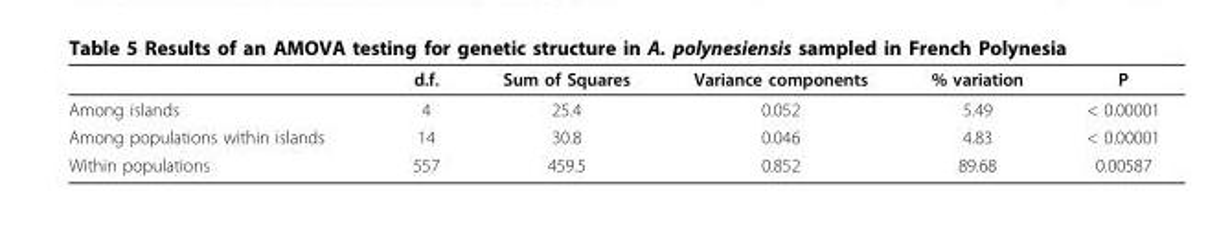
<table><thead><tr><td></td><td>d.f.</td><td>Sum of Squares</td><td>Variance components</td><td>% variation</td><td>P</td></tr></thead><tbody><tr><td>Among islands</td><td>4</td><td>25.4</td><td>0.052</td><td>5.49</td><td>&lt; 0.00001</td></tr><tr><td>Among populations within islands</td><td>14</td><td>30.8</td><td>0.046</td><td>4.83</td><td>&lt; 0.00001</td></tr><tr><td>Within populations</td><td>557</td><td>459.5</td><td>0.852</td><td>89.68</td><td>0.00587</td></tr></tbody></table>